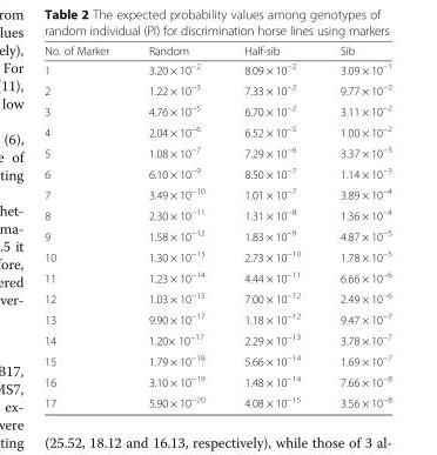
<table><thead><tr><td>No. of Marker</td><td>Random</td><td>Half-sib</td><td>Sib</td></tr></thead><tbody><tr><td>1</td><td>3.20 × 10<sup>−2</sup></td><td>8.09 × 10<sup>−2</sup></td><td>3.09 × 10<sup>−1</sup></td></tr><tr><td>2</td><td>1.22 × 10<sup>−3</sup></td><td>7.33 × 10<sup>−2</sup></td><td>9.77 × 10<sup>−2</sup></td></tr><tr><td>3</td><td>4.76 × 10<sup>−5</sup></td><td>6.70 × 10<sup>−2</sup></td><td>3.11 × 10<sup>−2</sup></td></tr><tr><td>4</td><td>2.04 × 10<sup>−6</sup></td><td>6.52 × 10<sup>−5</sup></td><td>1.00 × 10<sup>−2</sup></td></tr><tr><td>5</td><td>1.08 × 10<sup>−7</sup></td><td>7.29 × 10<sup>−6</sup></td><td>3.37 × 10<sup>−3</sup></td></tr><tr><td>6</td><td>6.10 × 10<sup>−9</sup></td><td>8.50 × 10<sup>−7</sup></td><td>1.14 × 10<sup>−3</sup></td></tr><tr><td>7</td><td>3.49 × 10<sup>−10</sup></td><td>1.01 × 10<sup>−7</sup></td><td>3.89 × 10<sup>−4</sup></td></tr><tr><td>8</td><td>2.30 × 10<sup>−11</sup></td><td>1.31 × 10<sup>−8</sup></td><td>1.36 × 10<sup>−4</sup></td></tr><tr><td>9</td><td>1.58 × 10<sup>−12</sup></td><td>1.83 × 10<sup>−9</sup></td><td>4.87 × 10<sup>−5</sup></td></tr><tr><td>10</td><td>1.30 × 10<sup>−13</sup></td><td>2.73 × 10<sup>−10</sup></td><td>1.78 × 10<sup>−5</sup></td></tr><tr><td>11</td><td>1.23 × 10<sup>−14</sup></td><td>4.44 × 10<sup>−11</sup></td><td>6.66 × 10<sup>−6</sup></td></tr><tr><td>12</td><td>1.03 × 10<sup>−15</sup></td><td>7.00 × 10<sup>−12</sup></td><td>2.49 × 10<sup>−6</sup></td></tr><tr><td>13</td><td>9.90 × 10<sup>−17</sup></td><td>1.18 × 10<sup>−12</sup></td><td>9.47 × 10<sup>−7</sup></td></tr><tr><td>14</td><td>1.20× 10<sup>−17</sup></td><td>2.29 × 10<sup>−13</sup></td><td>3.78 × 10<sup>−7</sup></td></tr><tr><td>15</td><td>1.79 × 10<sup>−18</sup></td><td>5.66 × 10<sup>−14</sup></td><td>1.69 × 10<sup>−7</sup></td></tr><tr><td>16</td><td>3.10 × 10<sup>−19</sup></td><td>1.48 × 10<sup>−14</sup></td><td>7.66 × 10<sup>−8</sup></td></tr><tr><td>17</td><td>5.90 × 10<sup>−20</sup></td><td>4.08 × 10<sup>−15</sup></td><td>3.56 × 10<sup>−8</sup></td></tr></tbody></table>